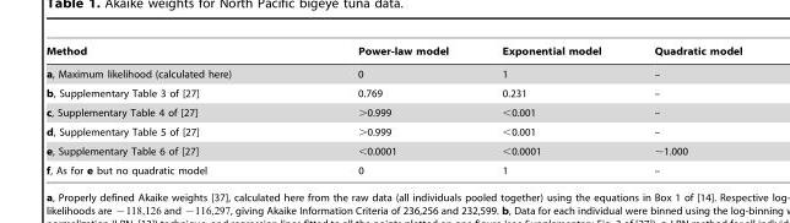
<table><thead><tr><td>Method</td><td>Power-law model</td><td>Exponential model</td><td>Quadratic model</td></tr></thead><tbody><tr><td>a, Maximum likelihood (calculated here)</td><td>0</td><td>1</td><td>–</td></tr><tr><td>b, Supplementary Table 3 of [27]</td><td>0.769</td><td>0.231</td><td>–</td></tr><tr><td>c, Supplementary Table 4 of [27]</td><td>&gt;0.999</td><td>&lt;0.001</td><td>–</td></tr><tr><td>d, Supplementary Table 5 of [27]</td><td>&gt;0.999</td><td>&lt;0.001</td><td>–</td></tr><tr><td>e, Supplementary Table 6 of [27]</td><td>&lt;0.0001</td><td>&lt;0.0001</td><td>∼1.000</td></tr><tr><td>f, As for e but no quadratic model</td><td>0</td><td>1</td><td>–</td></tr></tbody></table>